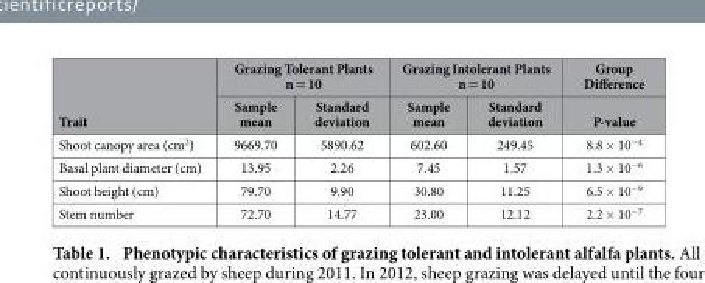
<table><thead><tr><td rowspan="2">Trait</td><td colspan="2">Grazing Tolerant Plants n = 10</td><td colspan="2">Grazing Intolerant Plants n = 10</td><td rowspan="2">Group Difference P-value</td></tr><tr><td>Sample mean</td><td>Standard deviation</td><td>Sample mean</td><td>Standard deviation</td></tr></thead><tbody><tr><td>Shoot canopy area (cm<sup>2</sup>)</td><td>9669.70</td><td>5890.62</td><td>602.60</td><td>249.45</td><td>8.8 × 10<sup>−4</sup></td></tr><tr><td>Basal plant diameter (cm)</td><td>13.95</td><td>2.26</td><td>7.45</td><td>1.57</td><td>1.3 × 10<sup>−6</sup></td></tr><tr><td>Shoot height (cm)</td><td>79.70</td><td>9.90</td><td>30.80</td><td>11.25</td><td>6.5 × 10<sup>−9</sup></td></tr><tr><td>Stem number</td><td>72.70</td><td>14.77</td><td>23.00</td><td>12.12</td><td>2.2 × 10<sup>−7</sup></td></tr></tbody></table>